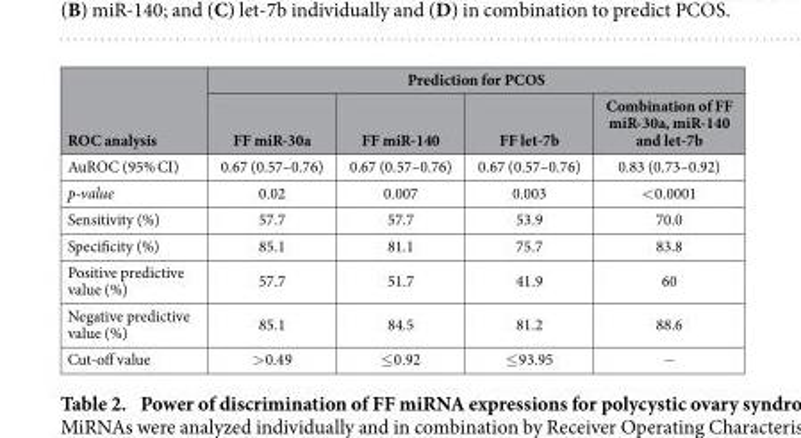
<table><thead><tr><td rowspan="2">ROC analysis</td><td colspan="4">Prediction for PCOS</td></tr><tr><td>FF miR-30a</td><td>FF miR-140</td><td>FF let-7b</td><td>Combination of FF miR-30a, miR-140 and let-7b</td></tr></thead><tbody><tr><td>AuROC (95% CI)</td><td>0.67 (0.57–0.76)</td><td>0.67 (0.57–0.76)</td><td>0.67 (0.57–0.76)</td><td>0.83 (0.73–0.92)</td></tr><tr><td>p-value</td><td>0.02</td><td>0.007</td><td>0.003</td><td>&lt; 0.0001</td></tr><tr><td>Sensitivity (%)</td><td>57.7</td><td>57.7</td><td>53.9</td><td>70.0</td></tr><tr><td>Specificity (%)</td><td>85.1</td><td>81.1</td><td>75.7</td><td>83.8</td></tr><tr><td>Positive predictive value (%)</td><td>57.7</td><td>51.7</td><td>41.9</td><td>60</td></tr><tr><td>Negative predictive value (%)</td><td>85.1</td><td>84.5</td><td>81.2</td><td>88.6</td></tr><tr><td>Cut-off value</td><td>&gt; 0.49</td><td>≤ 0.92</td><td>≤ 93.95</td><td>−</td></tr></tbody></table>